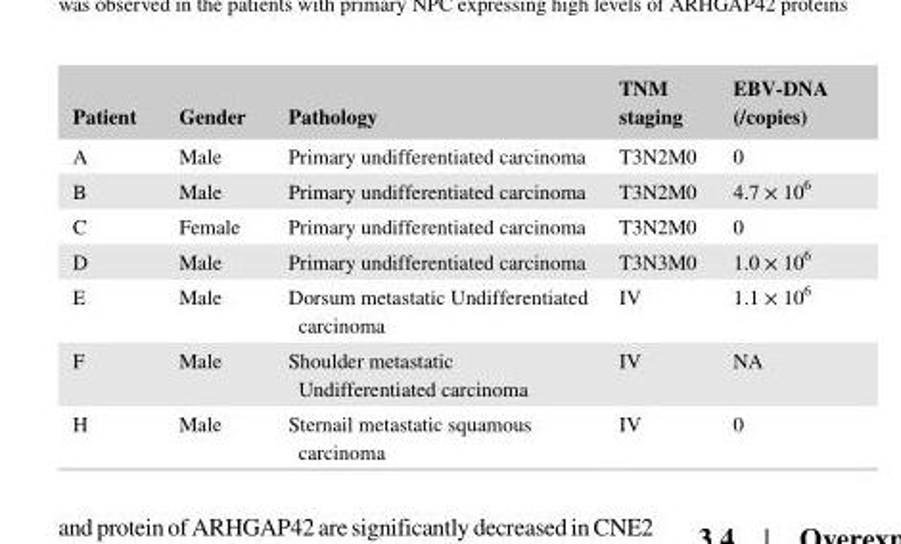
<table><thead><tr><td>Patient</td><td>Gender</td><td>Pathology</td><td>TNM staging</td><td>EBV- DNA (/copies)</td></tr></thead><tbody><tr><td>A</td><td>Male</td><td>Primary undifferentiated carcinoma</td><td>T3N2M0</td><td>0</td></tr><tr><td>B</td><td>Male</td><td>Primary undifferentiated carcinoma</td><td>T3N2M0</td><td>4.7 × 10<sup>6</sup></td></tr><tr><td>C</td><td>Female</td><td>Primary undifferentiated carcinoma</td><td>T3N2M0</td><td>0</td></tr><tr><td>D</td><td>Male</td><td>Primary undifferentiated carcinoma</td><td>T3N3M0</td><td>1.0 × 10<sup>6</sup></td></tr><tr><td>E</td><td>Male</td><td>Dorsum metastatic Undifferentiated carcinoma</td><td>IV</td><td>1.1 × 10<sup>6</sup></td></tr><tr><td>F</td><td>Male</td><td>Shoulder metastatic Undifferentiated carcinoma</td><td>IV</td><td>NA</td></tr><tr><td>H</td><td>Male</td><td>Sternail metastatic squamous carcinoma</td><td>IV</td><td>0</td></tr></tbody></table>